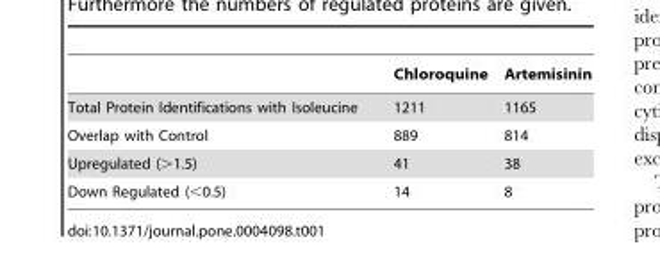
<table><thead><tr><td></td><td>Chloroquine</td><td>Artemisinin</td></tr></thead><tbody><tr><td>Total Protein Identifications with Isoleucine</td><td>1211</td><td>1165</td></tr><tr><td>Overlap with Control</td><td>889</td><td>814</td></tr><tr><td>Upregulated (&gt;1.5)</td><td>41</td><td>38</td></tr><tr><td>Down Regulated (&lt;0.5)</td><td>14</td><td>8</td></tr></tbody></table>